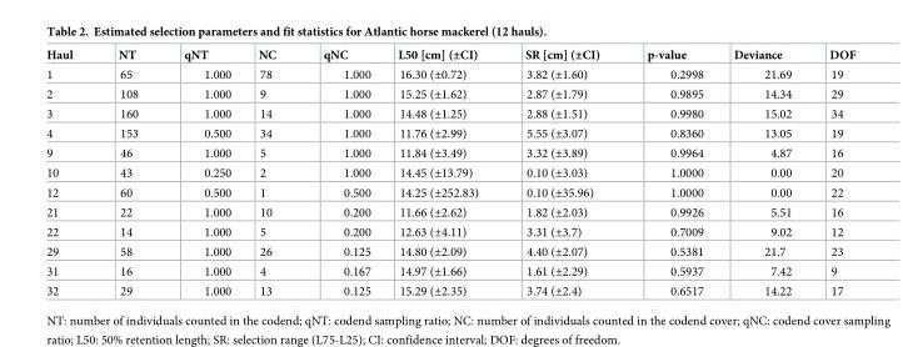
<table><thead><tr><td>Haul</td><td>NT</td><td>qNT</td><td>NC</td><td>qNC</td><td>L50 [cm] (±CI)</td><td>SR [cm] (±CI)</td><td>p-value</td><td>Deviance</td><td>DOF</td></tr></thead><tbody><tr><td>1</td><td>65</td><td>1.000</td><td>78</td><td>1.000</td><td>16.30 (±0.72)</td><td>3.82 (±1.60)</td><td>0.2998</td><td>21.69</td><td>19</td></tr><tr><td>2</td><td>108</td><td>1.000</td><td>9</td><td>1.000</td><td>15.25 (±1.62)</td><td>2.87 (±1.79)</td><td>0.9895</td><td>14.34</td><td>29</td></tr><tr><td>3</td><td>160</td><td>1.000</td><td>14</td><td>1.000</td><td>14.48 (±1.25)</td><td>2.88 (±1.51)</td><td>0.9980</td><td>15.02</td><td>34</td></tr><tr><td>4</td><td>153</td><td>0.500</td><td>34</td><td>1.000</td><td>11.76 (±2.99)</td><td>5.55 (±3.07)</td><td>0.8360</td><td>13.05</td><td>19</td></tr><tr><td>9</td><td>46</td><td>1.000</td><td>5</td><td>1.000</td><td>11.84 (±3.49)</td><td>3.32 (±3.89)</td><td>0.9964</td><td>4.87</td><td>16</td></tr><tr><td>10</td><td>43</td><td>0.250</td><td>2</td><td>1.000</td><td>14.45 (±13.79)</td><td>0.10 (±3.03)</td><td>1.0000</td><td>0.00</td><td>20</td></tr><tr><td>12</td><td>60</td><td>0.500</td><td>1</td><td>0.500</td><td>14.25 (±252.83)</td><td>0.10 (±35.96)</td><td>1.0000</td><td>0.00</td><td>22</td></tr><tr><td>21</td><td>22</td><td>1.000</td><td>10</td><td>0.200</td><td>11.66 (±2.62)</td><td>1.82 (±2.03)</td><td>0.9926</td><td>5.51</td><td>16</td></tr><tr><td>22</td><td>14</td><td>1.000</td><td>5</td><td>0.200</td><td>12.63 (±4.11)</td><td>3.31 (±3.7)</td><td>0.7009</td><td>9.02</td><td>12</td></tr><tr><td>29</td><td>58</td><td>1.000</td><td>26</td><td>0.125</td><td>14.80 (±2.09)</td><td>4.40 (±2.07)</td><td>0.5381</td><td>21.7</td><td>23</td></tr><tr><td>31</td><td>16</td><td>1.000</td><td>4</td><td>0.167</td><td>14.97 (±1.66)</td><td>1.61 (±2.29)</td><td>0.5937</td><td>7.42</td><td>9</td></tr><tr><td>32</td><td>29</td><td>1.000</td><td>13</td><td>0.125</td><td>15.29 (±2.35)</td><td>3.74 (±2.4)</td><td>0.6517</td><td>14.22</td><td>17</td></tr></tbody></table>